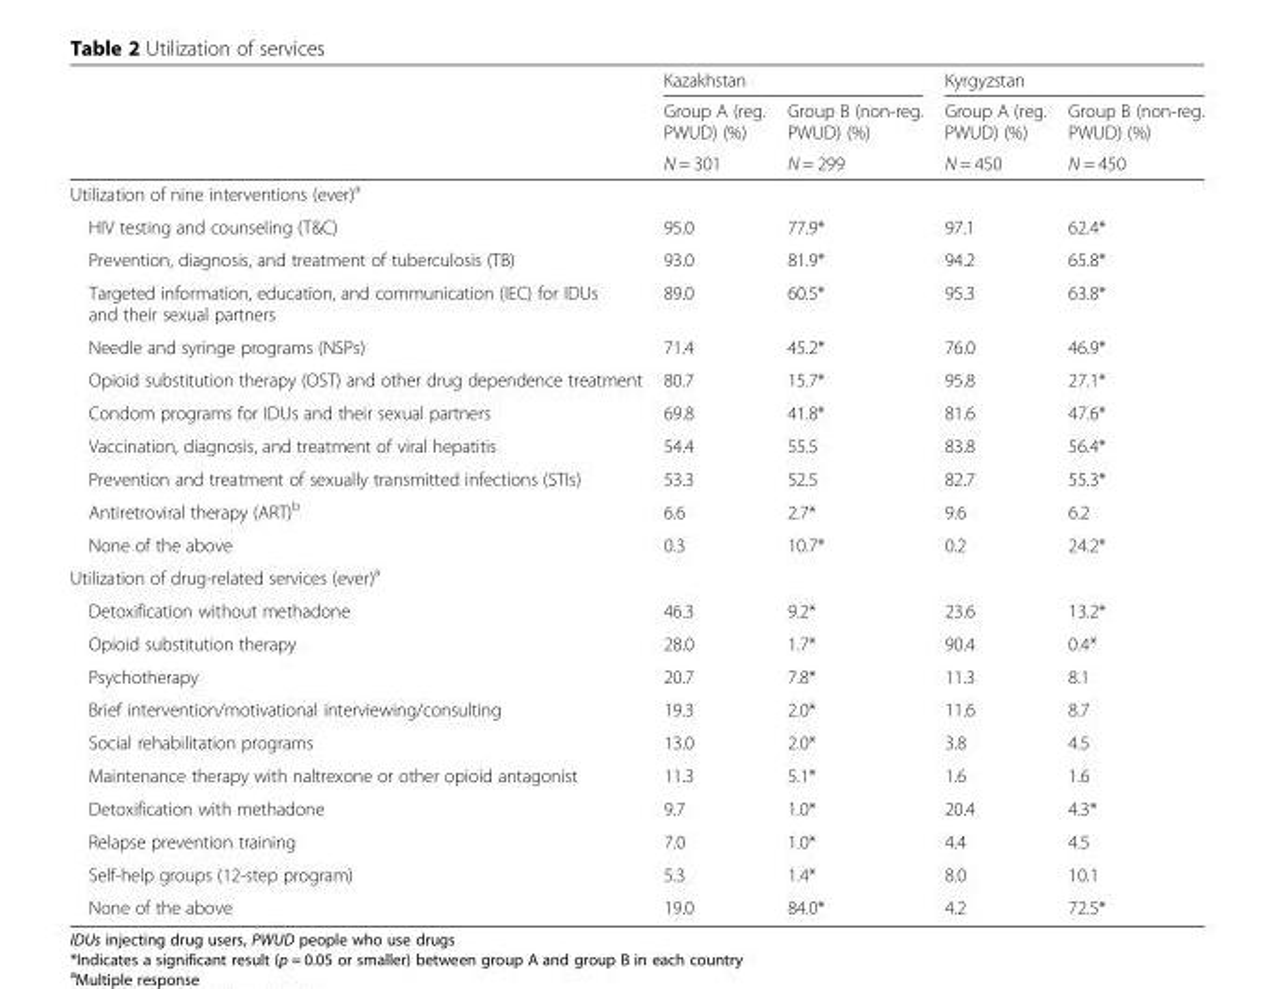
<table><thead><tr><td rowspan="3"></td><td colspan="2">Kazakhstan</td><td colspan="2">Kyrgyzstan</td></tr><tr><td rowspan="2">Group A (reg. PWUD) (%) N = 301</td><td rowspan="2">Group B (non-reg. PWUD) (%) N = 299</td><td rowspan="2">Group A (reg. PWUD) (%) N = 450</td><td rowspan="2">Group B (non-reg. PWUD) (%) N = 450</td></tr><tr></tr></thead><tbody><tr><td colspan="5">Utilization of nine interventions (ever)<sup>a</sup></td></tr><tr><td>HIV testing and counseling (T&amp;C)</td><td>95.0</td><td>77.9*</td><td>97.1</td><td>62.4*</td></tr><tr><td>Prevention, diagnosis, and treatment of tuberculosis (TB)</td><td>93.0</td><td>81.9*</td><td>94.2</td><td>65.8*</td></tr><tr><td>Targeted information, education, and communication (IEC) for IDUs and their sexual partners</td><td>89.0</td><td>60.5*</td><td>95.3</td><td>63.8*</td></tr><tr><td>Needle and syringe programs (NSPs)</td><td>71.4</td><td>45.2*</td><td>76.0</td><td>46.9*</td></tr><tr><td>Opioid substitution therapy (OST) and other drug dependence treatment</td><td>80.7</td><td>15.7*</td><td>95.8</td><td>27.1*</td></tr><tr><td>Condom programs for IDUs and their sexual partners</td><td>69.8</td><td>41.8*</td><td>81.6</td><td>47.6*</td></tr><tr><td>Vaccination, diagnosis, and treatment of viral hepatitis</td><td>54.4</td><td>55.5</td><td>83.8</td><td>56.4*</td></tr><tr><td>Prevention and treatment of sexually transmitted infections (STIs)</td><td>53.3</td><td>52.5</td><td>82.7</td><td>55.3*</td></tr><tr><td>Antiretroviral therapy (ART)<sup>b</sup></td><td>6.6</td><td>2.7*</td><td>9.6</td><td>6.2</td></tr><tr><td>None of the above</td><td>0.3</td><td>10.7*</td><td>0.2</td><td>24.2*</td></tr><tr><td colspan="5">Utilization of drug-related services (ever)<sup>a</sup></td></tr><tr><td>Detoxification without methadone</td><td>46.3</td><td>9.2*</td><td>23.6</td><td>13.2*</td></tr><tr><td>Opioid substitution therapy</td><td>28.0</td><td>1.7*</td><td>90.4</td><td>0.4*</td></tr><tr><td>Psychotherapy</td><td>20.7</td><td>7.8*</td><td>11.3</td><td>8.1</td></tr><tr><td>Brief intervention/motivational interviewing/consulting</td><td>19.3</td><td>2.0*</td><td>11.6</td><td>8.7</td></tr><tr><td>Social rehabilitation programs</td><td>13.0</td><td>2.0*</td><td>3.8</td><td>4.5</td></tr><tr><td>Maintenance therapy with naltrexone or other opioid antagonist</td><td>11.3</td><td>5.1*</td><td>1.6</td><td>1.6</td></tr><tr><td>Detoxification with methadone</td><td>9.7</td><td>1.0*</td><td>20.4</td><td>4.3*</td></tr><tr><td>Relapse prevention training</td><td>7.0</td><td>1.0*</td><td>4.4</td><td>4.5</td></tr><tr><td>Self-help groups (12-step program)</td><td>5.3</td><td>1.4*</td><td>8.0</td><td>10.1</td></tr><tr><td>None of the above</td><td>19.0</td><td>84.0*</td><td>4.2</td><td>72.5*</td></tr></tbody></table>